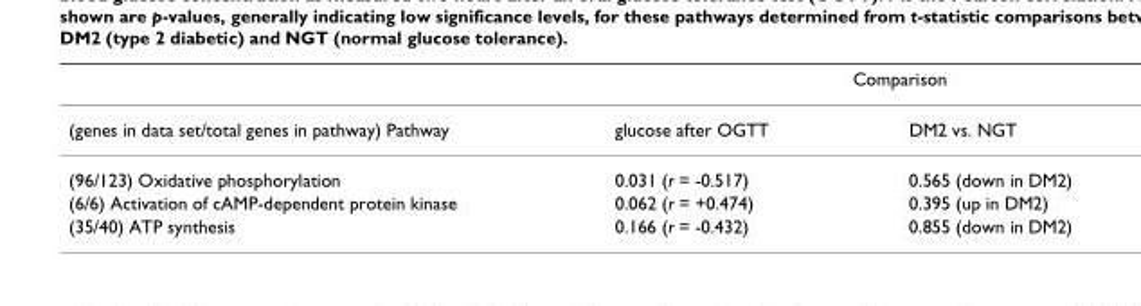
<table><thead><tr><td rowspan="2">(genes in data set/total genes in pathway) Pathway</td><td colspan="2">Comparison</td></tr><tr><td>glucose after OGTT</td><td>DM2 vs. NGT</td></tr></thead><tbody><tr><td>(96/123) Oxidative phosphorylation</td><td>0.031 (r = -0.517)</td><td>0.565 (down in DM2)</td></tr><tr><td>(6/6) Activation of cAMP-dependent protein kinase</td><td>0.062 (r = +0.474)</td><td>0.395 (up in DM2)</td></tr><tr><td>(35/40) ATP synthesis</td><td>0.166 (r = -0.432)</td><td>0.855 (down in DM2)</td></tr></tbody></table>